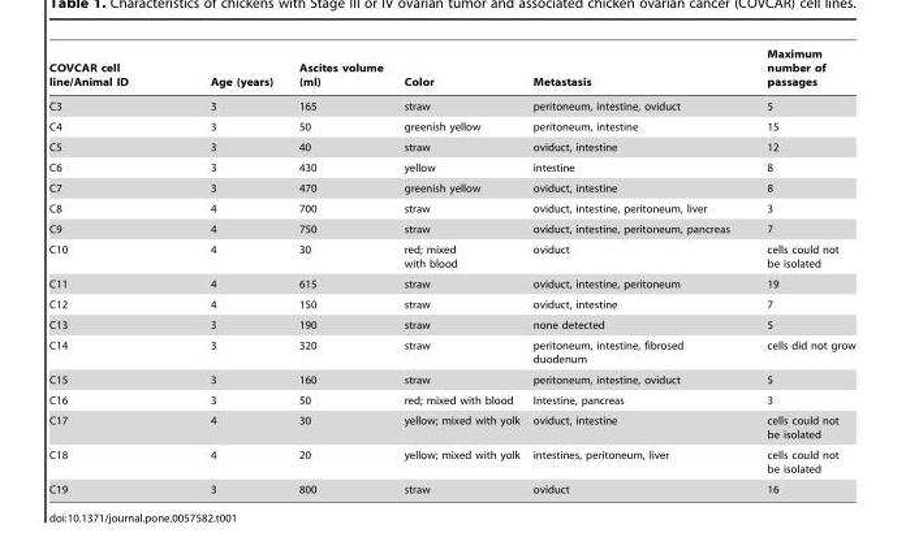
<table><thead><tr><td>COVCAR cell line/Animal ID</td><td>Age (years)</td><td>Ascites volume (ml)</td><td>Color</td><td>Metastasis</td><td>Maximum number of passages</td></tr></thead><tbody><tr><td>C3</td><td>3</td><td>165</td><td>straw</td><td>peritoneum, intestine, oviduct</td><td>5</td></tr><tr><td>C4</td><td>3</td><td>50</td><td>greenish yellow</td><td>peritoneum, intestine</td><td>15</td></tr><tr><td>C5</td><td>3</td><td>40</td><td>straw</td><td>oviduct, intestine</td><td>12</td></tr><tr><td>C6</td><td>3</td><td>430</td><td>yellow</td><td>intestine</td><td>8</td></tr><tr><td>C7</td><td>3</td><td>470</td><td>greenish yellow</td><td>oviduct, intestine</td><td>8</td></tr><tr><td>C8</td><td>4</td><td>700</td><td>straw</td><td>oviduct, intestine, peritoneum, liver</td><td>3</td></tr><tr><td>C9</td><td>4</td><td>750</td><td>straw</td><td>oviduct, intestine, peritoneum, pancreas</td><td>7</td></tr><tr><td>C10</td><td>4</td><td>30</td><td>red; mixed with blood</td><td>oviduct</td><td>cells could not be isolated</td></tr><tr><td>C11</td><td>4</td><td>615</td><td>straw</td><td>oviduct, intestine, peritoneum</td><td>19</td></tr><tr><td>C12</td><td>4</td><td>150</td><td>straw</td><td>oviduct, intestine</td><td>7</td></tr><tr><td>C13</td><td>3</td><td>190</td><td>straw</td><td>none detected</td><td>5</td></tr><tr><td>C14</td><td>3</td><td>320</td><td>straw</td><td>peritoneum, intestine, fibrosed duodenum</td><td>cells did not grow</td></tr><tr><td>C15</td><td>3</td><td>160</td><td>straw</td><td>peritoneum, intestine, oviduct</td><td>5</td></tr><tr><td>C16</td><td>3</td><td>50</td><td>red; mixed with blood</td><td>Intestine, pancreas</td><td>3</td></tr><tr><td>C17</td><td>4</td><td>30</td><td>yellow; mixed with yolk</td><td>oviduct, intestine</td><td>cells could not be isolated</td></tr><tr><td>C18</td><td>4</td><td>20</td><td>yellow; mixed with yolk</td><td>intestines, peritoneum, liver</td><td>cells could not be isolated</td></tr><tr><td>C19</td><td>3</td><td>800</td><td>straw</td><td>oviduct</td><td>16</td></tr></tbody></table>